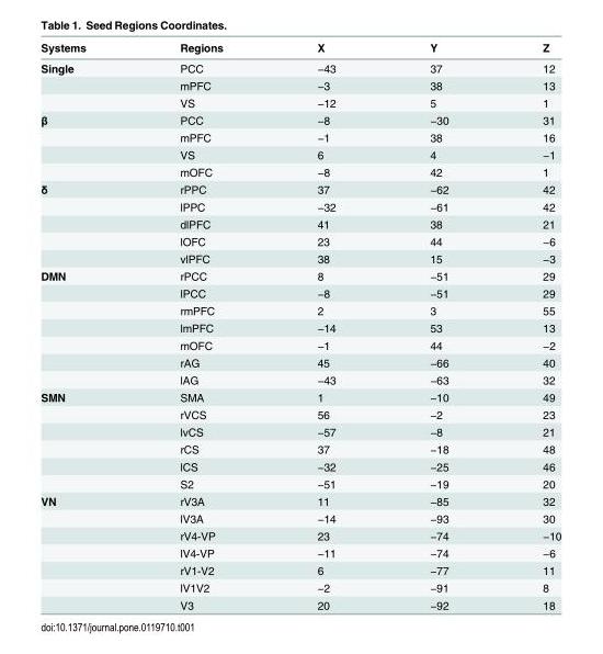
<table><thead><tr><td>Systems</td><td>Regions</td><td>X</td><td>Y</td><td>Z</td></tr></thead><tbody><tr><td rowspan="3">Single</td><td>PCC</td><td>−43</td><td>37</td><td>12</td></tr><tr><td>mPFC</td><td>−3</td><td>38</td><td>13</td></tr><tr><td>VS</td><td>−12</td><td>5</td><td>1</td></tr><tr><td rowspan="4">β</td><td>PCC</td><td>−8</td><td>−30</td><td>31</td></tr><tr><td>mPFC</td><td>−1</td><td>38</td><td>16</td></tr><tr><td>VS</td><td>6</td><td>4</td><td>−1</td></tr><tr><td>mOFC</td><td>−8</td><td>42</td><td>1</td></tr><tr><td rowspan="5">δ</td><td>rPPC</td><td>37</td><td>−62</td><td>42</td></tr><tr><td>lPPC</td><td>−32</td><td>−61</td><td>42</td></tr><tr><td>dlPFC</td><td>41</td><td>38</td><td>21</td></tr><tr><td>lOFC</td><td>23</td><td>44</td><td>−6</td></tr><tr><td>vlPFC</td><td>38</td><td>15</td><td>−3</td></tr><tr><td rowspan="7">DMN</td><td>rPCC</td><td>8</td><td>−51</td><td>29</td></tr><tr><td>lPCC</td><td>−8</td><td>−51</td><td>29</td></tr><tr><td>rmPFC</td><td>2</td><td>3</td><td>55</td></tr><tr><td>lmPFC</td><td>−14</td><td>53</td><td>13</td></tr><tr><td>mOFC</td><td>−1</td><td>44</td><td>−2</td></tr><tr><td>rAG</td><td>45</td><td>−66</td><td>40</td></tr><tr><td>lAG</td><td>−43</td><td>−63</td><td>32</td></tr><tr><td rowspan="6">SMN</td><td>SMA</td><td>1</td><td>−10</td><td>49</td></tr><tr><td>rVCS</td><td>56</td><td>−2</td><td>23</td></tr><tr><td>lvCS</td><td>−57</td><td>−8</td><td>21</td></tr><tr><td>rCS</td><td>37</td><td>−18</td><td>48</td></tr><tr><td>lCS</td><td>−32</td><td>−25</td><td>46</td></tr><tr><td>S2</td><td>−51</td><td>−19</td><td>20</td></tr><tr><td rowspan="7">VN</td><td>rV3A</td><td>11</td><td>−85</td><td>32</td></tr><tr><td>lV3A</td><td>−14</td><td>−93</td><td>30</td></tr><tr><td>rV4-VP</td><td>23</td><td>−74</td><td>−10</td></tr><tr><td>lV4-VP</td><td>−11</td><td>−74</td><td>−6</td></tr><tr><td>rV1-V2</td><td>6</td><td>−77</td><td>11</td></tr><tr><td>lV1V2</td><td>−2</td><td>−91</td><td>8</td></tr><tr><td>V3</td><td>20</td><td>−92</td><td>18</td></tr></tbody></table>